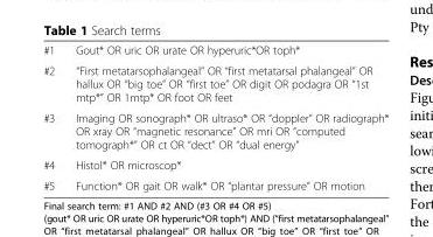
<table><tbody><tr><td>#1</td><td>Gout* OR uric OR urate OR hyperuric*OR toph*</td></tr><tr><td>#2</td><td>“First metatarsophalangeal” OR “first metatarsal phalangeal” OR hallux OR “big toe” OR “first toe” OR digit OR podagra OR “1st mtp*” OR 1mtp* OR foot OR feet</td></tr><tr><td>#3</td><td>Imaging OR sonograph* OR ultraso* OR “doppler” OR radiograph* OR xray OR “magnetic resonance” OR mri OR “computed tomograph*” OR ct OR “dect” OR “dual energy”</td></tr><tr><td>#4</td><td>Histol* OR microscop*</td></tr><tr><td>#5</td><td>Function* OR gait OR walk* OR “plantar pressure” OR motion</td></tr></tbody></table>